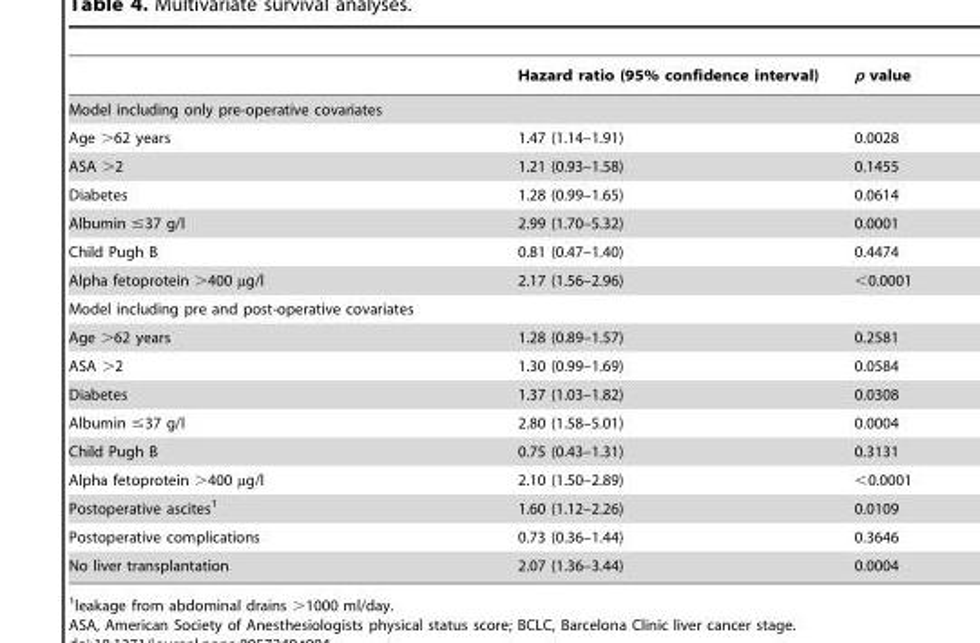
<table><thead><tr><td></td><td>Hazard ratio (95% confidence interval)</td><td>p value</td></tr></thead><tbody><tr><td colspan="3">Model including only pre-operative covariates</td></tr><tr><td>Age &gt;62 years</td><td>1.47 (1.14–1.91)</td><td>0.0028</td></tr><tr><td>ASA &gt;2</td><td>1.21 (0.93–1.58)</td><td>0.1455</td></tr><tr><td>Diabetes</td><td>1.28 (0.99–1.65)</td><td>0.0614</td></tr><tr><td>Albumin ≤37 g/l</td><td>2.99 (1.70–5.32)</td><td>0.0001</td></tr><tr><td>Child Pugh B</td><td>0.81 (0.47–1.40)</td><td>0.4474</td></tr><tr><td>Alpha fetoprotein &gt;400 µg/l</td><td>2.17 (1.56–2.96)</td><td>&lt;0.0001</td></tr><tr><td colspan="3">Model including pre and post-operative covariates</td></tr><tr><td>Age &gt;62 years</td><td>1.28 (0.89–1.57)</td><td>0.2581</td></tr><tr><td>ASA &gt;2</td><td>1.30 (0.99–1.69)</td><td>0.0584</td></tr><tr><td>Diabetes</td><td>1.37 (1.03–1.82)</td><td>0.0308</td></tr><tr><td>Albumin ≤37 g/l</td><td>2.80 (1.58–5.01)</td><td>0.0004</td></tr><tr><td>Child Pugh B</td><td>0.75 (0.43–1.31)</td><td>0.3131</td></tr><tr><td>Alpha fetoprotein &gt;400 µg/l</td><td>2.10 (1.50–2.89)</td><td>&lt;0.0001</td></tr><tr><td>Postoperative ascites<sup>1</sup></td><td>1.60 (1.12–2.26)</td><td>0.0109</td></tr><tr><td>Postoperative complications</td><td>0.73 (0.36–1.44)</td><td>0.3646</td></tr><tr><td>No liver transplantation</td><td>2.07 (1.36–3.44)</td><td>0.0004</td></tr></tbody></table>